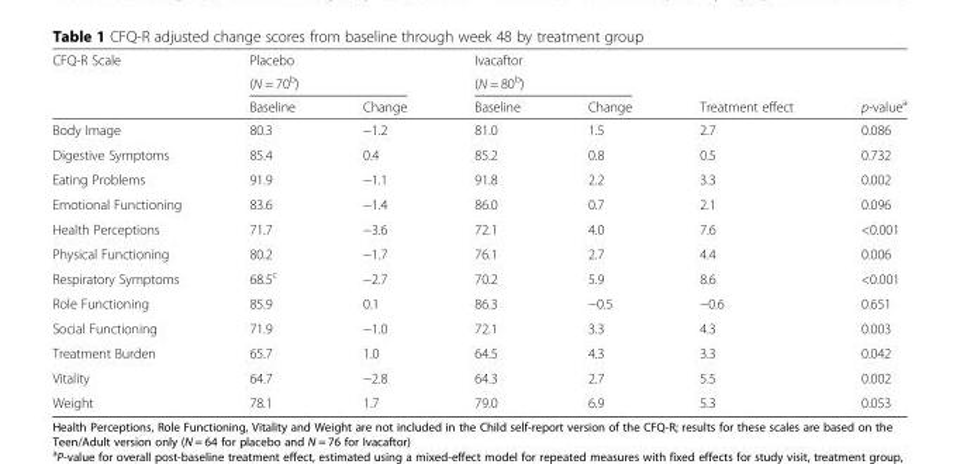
<table><thead><tr><td rowspan="3">CFQ-R Scale</td><td rowspan="2" colspan="2">Placebo (N = 70<sup>b</sup>)</td><td rowspan="2" colspan="2">Ivacaftor (N = 80<sup>b</sup>)</td><td rowspan="3">Treatment effect</td><td rowspan="3">p-value<sup>a</sup></td></tr><tr></tr><tr><td>Baseline</td><td>Change</td><td>Baseline</td><td>Change</td></tr></thead><tbody><tr><td>Body Image</td><td>80.3</td><td>−1.2</td><td>81.0</td><td>1.5</td><td>2.7</td><td>0.086</td></tr><tr><td>Digestive Symptoms</td><td>85.4</td><td>0.4</td><td>85.2</td><td>0.8</td><td>0.5</td><td>0.732</td></tr><tr><td>Eating Problems</td><td>91.9</td><td>−1.1</td><td>91.8</td><td>2.2</td><td>3.3</td><td>0.002</td></tr><tr><td>Emotional Functioning</td><td>83.6</td><td>−1.4</td><td>86.0</td><td>0.7</td><td>2.1</td><td>0.096</td></tr><tr><td>Health Perceptions</td><td>71.7</td><td>−3.6</td><td>72.1</td><td>4.0</td><td>7.6</td><td>&lt;0.001</td></tr><tr><td>Physical Functioning</td><td>80.2</td><td>−1.7</td><td>76.1</td><td>2.7</td><td>4.4</td><td>0.006</td></tr><tr><td>Respiratory Symptoms</td><td>68.5<sup>c</sup></td><td>−2.7</td><td>70.2</td><td>5.9</td><td>8.6</td><td>&lt;0.001</td></tr><tr><td>Role Functioning</td><td>85.9</td><td>0.1</td><td>86.3</td><td>−0.5</td><td>−0.6</td><td>0.651</td></tr><tr><td>Social Functioning</td><td>71.9</td><td>−1.0</td><td>72.1</td><td>3.3</td><td>4.3</td><td>0.003</td></tr><tr><td>Treatment Burden</td><td>65.7</td><td>1.0</td><td>64.5</td><td>4.3</td><td>3.3</td><td>0.042</td></tr><tr><td>Vitality</td><td>64.7</td><td>−2.8</td><td>64.3</td><td>2.7</td><td>5.5</td><td>0.002</td></tr><tr><td>Weight</td><td>78.1</td><td>1.7</td><td>79.0</td><td>6.9</td><td>5.3</td><td>0.053</td></tr></tbody></table>